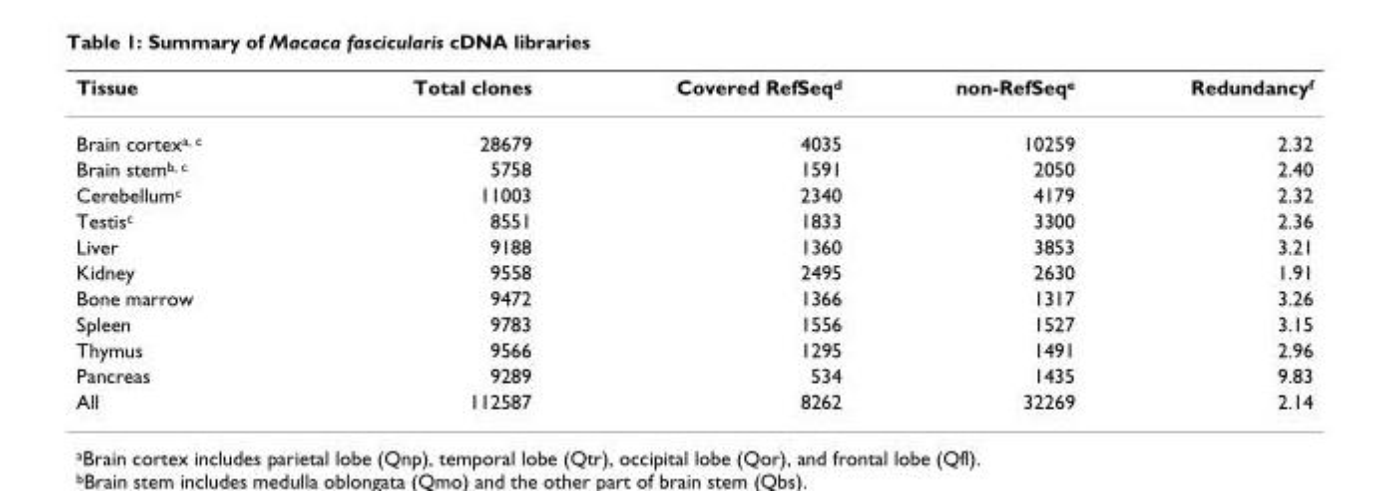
<table><thead><tr><td>Tissue</td><td>Total clones</td><td>Covered RefSeq<sup>d</sup></td><td>non-RefSeq<sup>e</sup></td><td>Redundancy<sup>f</sup></td></tr></thead><tbody><tr><td>Brain cortex<sup>a, c</sup></td><td>28679</td><td>4035</td><td>10259</td><td>2.32</td></tr><tr><td>Brain stem<sup>b, c</sup></td><td>5758</td><td>1591</td><td>2050</td><td>2.40</td></tr><tr><td>Cerebellum<sup>c</sup></td><td>11003</td><td>2340</td><td>4179</td><td>2.32</td></tr><tr><td>Testis<sup>c</sup></td><td>8551</td><td>1833</td><td>3300</td><td>2.36</td></tr><tr><td>Liver</td><td>9188</td><td>1360</td><td>3853</td><td>3.21</td></tr><tr><td>Kidney</td><td>9558</td><td>2495</td><td>2630</td><td>1.91</td></tr><tr><td>Bone marrow</td><td>9472</td><td>1366</td><td>1317</td><td>3.26</td></tr><tr><td>Spleen</td><td>9783</td><td>1556</td><td>1527</td><td>3.15</td></tr><tr><td>Thymus</td><td>9566</td><td>1295</td><td>1491</td><td>2.96</td></tr><tr><td>Pancreas</td><td>9289</td><td>534</td><td>1435</td><td>9.83</td></tr><tr><td>All</td><td>112587</td><td>8262</td><td>32269</td><td>2.14</td></tr></tbody></table>